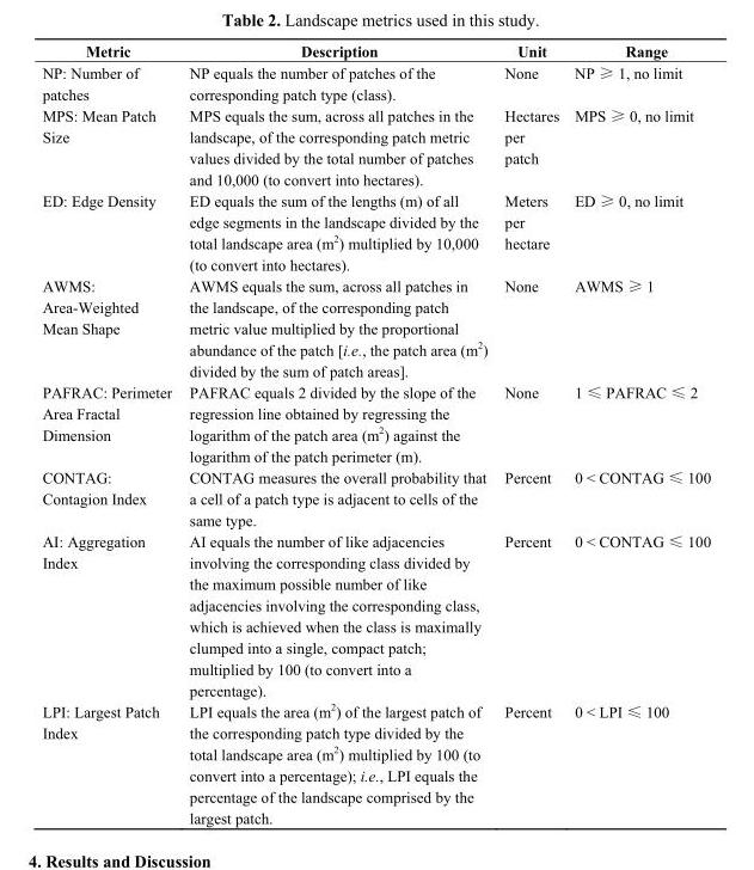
<table><thead><tr><td>Metric</td><td>Description</td><td>Unit</td><td>Range</td></tr></thead><tbody><tr><td>NP: Number of patches</td><td>NP equals the number of patches of the corresponding patch type (class).</td><td>None</td><td>NP ≥ 1, no limit</td></tr><tr><td>MPS: Mean Patch Size</td><td>MPS equals the sum, across all patches in the landscape, of the corresponding patch metric values divided by the total number of patches and 10,000 (to convert into hectares).</td><td>Hectares per patch</td><td>MPS ≥ 0, no limit</td></tr><tr><td>ED: Edge Density</td><td>ED equals the sum of the lengths (m) of all edge segments in the landscape divided by the total landscape area (m<sup>2</sup>) multiplied by 10,000 (to convert into hectares).</td><td>Meters per hectare</td><td>ED ≥ 0, no limit</td></tr><tr><td>AWMS: Area-Weighted Mean Shape</td><td>AWMS equals the sum, across all patches in the landscape, of the corresponding patch metric value multiplied by the proportional abundance of the patch [i.e., the patch area (m<sup>2</sup>) divided by the sum of patch areas].</td><td>None</td><td>AWMS ≥ 1</td></tr><tr><td>PAFRAC: Perimeter Area Fractal Dimension</td><td>PAFRAC equals 2 divided by the slope of the regression line obtained by regressing the logarithm of the patch area (m<sup>2</sup>) against the logarithm of the patch perimeter (m).</td><td>None</td><td>1 ≤ PAFRAC ≤ 2</td></tr><tr><td>CONTAG: Contagion Index</td><td>CONTAG measures the overall probability that a cell of a patch type is adjacent to cells of the same type.</td><td>Percent</td><td>0 &lt; CONTAG ≤ 100</td></tr><tr><td>AI: Aggregation Index</td><td>AI equals the number of like adjacencies involving the corresponding class divided by the maximum possible number of like adjacencies involving the corresponding class, which is achieved when the class is maximally clumped into a single, compact patch; multiplied by 100 (to convert into a percentage).</td><td>Percent</td><td>0 &lt; CONTAG ≤ 100</td></tr><tr><td>LPI: Largest Patch Index</td><td>LPI equals the area (m<sup>2</sup>) of the largest patch of the corresponding patch type divided by the total landscape area (m<sup>2</sup>) multiplied by 100 (to convert into a percentage); i.e., LPI equals the percentage of the landscape comprised by the largest patch.</td><td>Percent</td><td>0 &lt; LPI ≤ 100</td></tr></tbody></table>